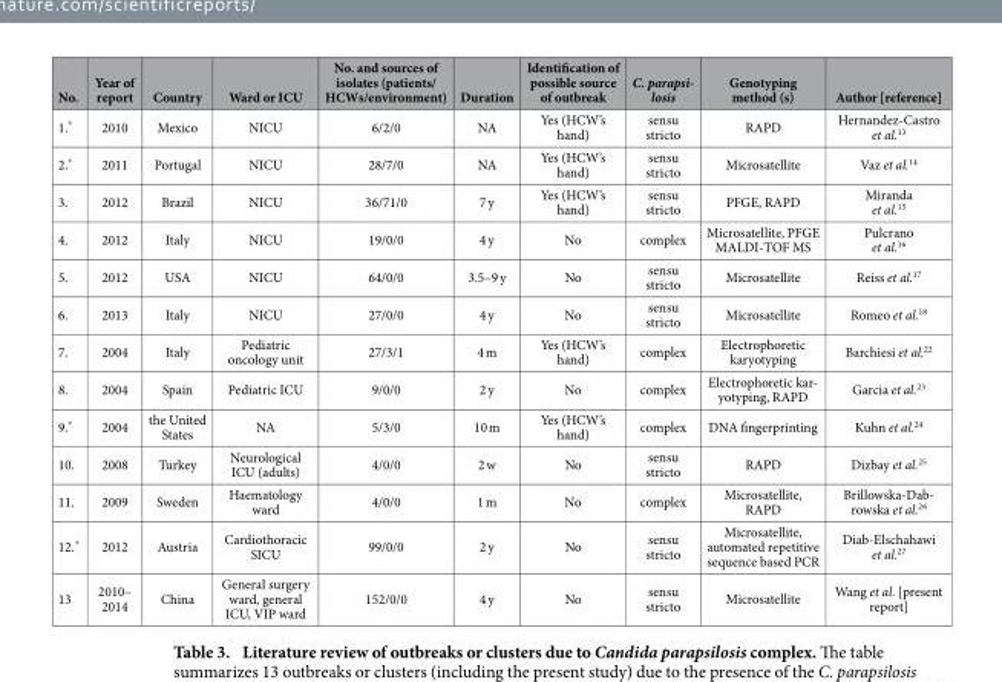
<table><thead><tr><td>No.</td><td>Year of report</td><td>Country</td><td>Ward or ICU</td><td>No. and sources of isolates (patients/ HCWs/environment)</td><td>Duration</td><td>Identification of possible source of outbreak</td><td>C. parapsi- losis</td><td>Genotyping method (s)</td><td>Author [reference]</td></tr></thead><tbody><tr><td>1.*</td><td>2010</td><td>Mexico</td><td>NICU</td><td>6/2/0</td><td>NA</td><td>Yes (HCW’s hand)</td><td>sensu stricto</td><td>RAPD</td><td>Hernandez-Castro et al.<sup>13</sup></td></tr><tr><td>2.*</td><td>2011</td><td>Portugal</td><td>NICU</td><td>28/7/0</td><td>NA</td><td>Yes (HCW’s hand)</td><td>sensu stricto</td><td>Microsatellite</td><td>Vaz et al.<sup>14</sup></td></tr><tr><td>3.</td><td>2012</td><td>Brazil</td><td>NICU</td><td>36/71/0</td><td>7 y</td><td>Yes (HCW’s hand)</td><td>sensu stricto</td><td>PFGE, RAPD</td><td>Miranda et al.<sup>15</sup></td></tr><tr><td>4.</td><td>2012</td><td>Italy</td><td>NICU</td><td>19/0/0</td><td>4 y</td><td>No</td><td>complex</td><td>Microsatellite, PFGE MALDI-TOF MS</td><td>Pulcrano et al.<sup>16</sup></td></tr><tr><td>5.</td><td>2012</td><td>USA</td><td>NICU</td><td>64/0/0</td><td>3.5–9 y</td><td>No</td><td>sensu stricto</td><td>Microsatellite</td><td>Reiss et al.<sup>17</sup></td></tr><tr><td>6.</td><td>2013</td><td>Italy</td><td>NICU</td><td>27/0/0</td><td>4 y</td><td>No</td><td>sensu stricto</td><td>Microsatellite</td><td>Romeo et al.<sup>18</sup></td></tr><tr><td>7.</td><td>2004</td><td>Italy</td><td>Pediatric oncology unit</td><td>27/3/1</td><td>4 m</td><td>Yes (HCW’s hand)</td><td>complex</td><td>Electrophoretic karyotyping</td><td>Barchiesi et al.<sup>22</sup></td></tr><tr><td>8.</td><td>2004</td><td>Spain</td><td>Pediatric ICU</td><td>9/0/0</td><td>2 y</td><td>No</td><td>complex</td><td>Electrophoretic kar- yotyping, RAPD</td><td>Garcia et al.<sup>23</sup></td></tr><tr><td>9.*</td><td>2004</td><td>the United States</td><td>NA</td><td>5/3/0</td><td>10 m</td><td>Yes (HCW’s hand)</td><td>complex</td><td>DNA fingerprinting</td><td>Kuhn et al.<sup>24</sup></td></tr><tr><td>10.</td><td>2008</td><td>Turkey</td><td>Neurological ICU (adults)</td><td>4/0/0</td><td>2 w</td><td>No</td><td>sensu stricto</td><td>RAPD</td><td>Dizbay et al.<sup>25</sup></td></tr><tr><td>11.</td><td>2009</td><td>Sweden</td><td>Haematology ward</td><td>4/0/0</td><td>1 m</td><td>No</td><td>complex</td><td>Microsatellite, RAPD</td><td>Brillowska-Dab- rowska et al.26</td></tr><tr><td>12.*</td><td>2012</td><td>Austria</td><td>Cardiothoracic SICU</td><td>99/0/0</td><td>2 y</td><td>No</td><td>sensu stricto</td><td>Microsatellite, automated repetitive sequence based PCR</td><td>Diab-Elschahawi et al.<sup>27</sup></td></tr><tr><td>13</td><td>2010– 2014</td><td>China</td><td>General surgery ward, general ICU, VIP ward</td><td>152/0/0</td><td>4 y</td><td>No</td><td>sensu stricto</td><td>Microsatellite</td><td>Wang et al. [present report]</td></tr></tbody></table>